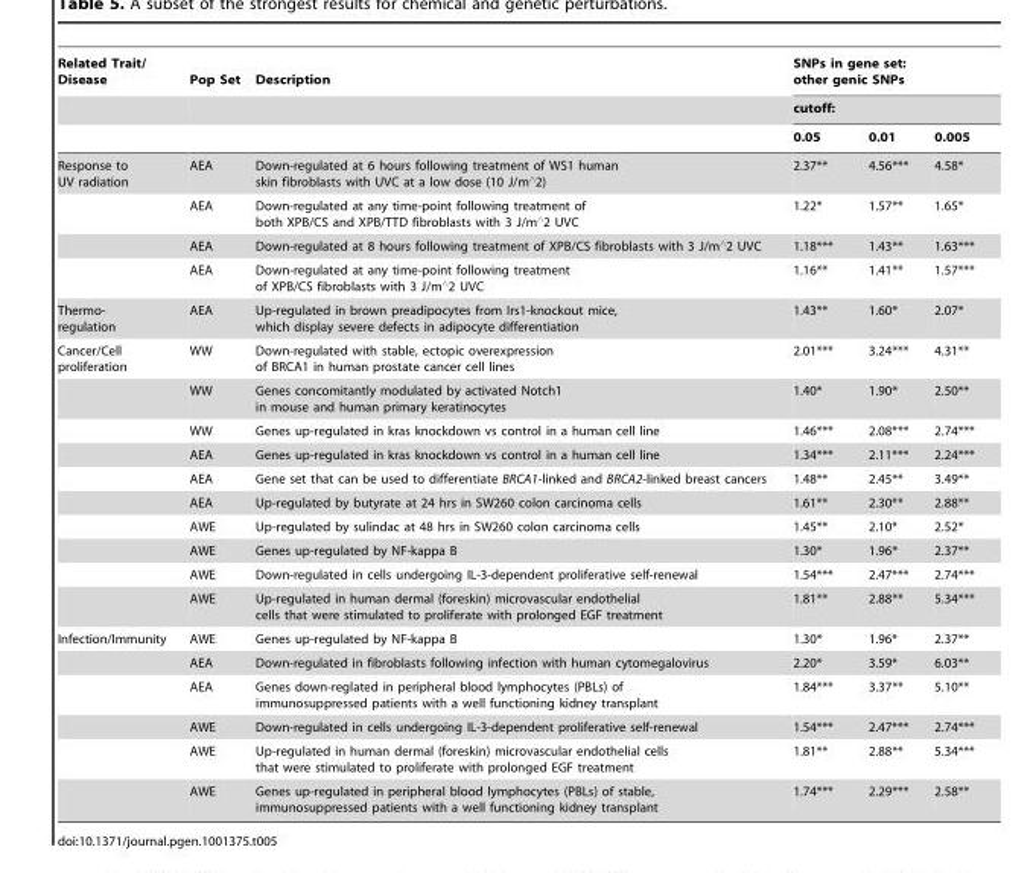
<table><thead><tr><td rowspan="3">Related Trait/ Disease</td><td rowspan="3">Pop Set</td><td rowspan="3">Description</td><td rowspan="2" colspan="3">SNPs in gene set: other genic SNPs cutoff:</td></tr><tr></tr><tr><td>0.05</td><td>0.01</td><td>0.005</td></tr></thead><tbody><tr><td rowspan="4">Response to UV radiation</td><td>AEA</td><td>Down-regulated at 6 hours following treatment of WS1 human skin fibroblasts with UVC at a low dose (10 J/m‘2)</td><td>2.37**</td><td>4.56***</td><td>4.58*</td></tr><tr><td>AEA</td><td>Down-regulated at any time-point following treatment of both XPB/CS and XPB/TTD fibroblasts with 3 J/m‘2 UVC</td><td>1.22*</td><td>1.57**</td><td>1.65*</td></tr><tr><td>AEA</td><td>Down-regulated at 8 hours following treatment of XPB/CS fibroblasts with 3 J/m‘2 UVC</td><td>1.18***</td><td>1.43**</td><td>1.63***</td></tr><tr><td>AEA</td><td>Down-regulated at any time-point following treatment of XPB/CS fibroblasts with 3 J/m‘2 UVC</td><td>1.16**</td><td>1.41**</td><td>1.57***</td></tr><tr><td>Thermo- regulation</td><td>AEA</td><td>Up-regulated in brown preadipocytes from Irs1-knockout mice, which display severe defects in adipocyte differentiation</td><td>1.43**</td><td>1.60*</td><td>2.07*</td></tr><tr><td rowspan="10">Cancer/Cell proliferation</td><td>WW</td><td>Down-regulated with stable, ectopic overexpression of BRCA1 in human prostate cancer cell lines</td><td>2.01***</td><td>3.24***</td><td>4.31**</td></tr><tr><td>WW</td><td>Genes concomitantly modulated by activated Notch1 in mouse and human primary keratinocytes</td><td>1.40*</td><td>1.90*</td><td>2.50**</td></tr><tr><td>WW</td><td>Genes up-regulated in kras knockdown vs control in a human cell line</td><td>1.46***</td><td>2.08***</td><td>2.74***</td></tr><tr><td>AEA</td><td>Genes up-regulated in kras knockdown vs control in a human cell line</td><td>1.34***</td><td>2.11***</td><td>2.24***</td></tr><tr><td>AEA</td><td>Gene set that can be used to differentiate BRCA1-linked and BRCA2-linked breast cancers</td><td>1.48**</td><td>2.45**</td><td>3.49**</td></tr><tr><td>AEA</td><td>Up-regulated by butyrate at 24 hrs in SW260 colon carcinoma cells</td><td>1.61**</td><td>2.30**</td><td>2.88**</td></tr><tr><td>AWE</td><td>Up-regulated by sulindac at 48 hrs in SW260 colon carcinoma cells</td><td>1.45**</td><td>2.10*</td><td>2.52*</td></tr><tr><td>AWE</td><td>Genes up-regulated by NF-kappa B</td><td>1.30*</td><td>1.96*</td><td>2.37**</td></tr><tr><td>AWE</td><td>Down-regulated in cells undergoing IL-3-dependent proliferative self-renewal</td><td>1.54***</td><td>2.47***</td><td>2.74***</td></tr><tr><td>AWE</td><td>Up-regulated in human dermal (foreskin) microvascular endothelial cells that were stimulated to proliferate with prolonged EGF treatment</td><td>1.81**</td><td>2.88**</td><td>5.34***</td></tr><tr><td rowspan="6">Infection/Immunity</td><td>AWE</td><td>Genes up-regulated by NF-kappa B</td><td>1.30*</td><td>1.96*</td><td>2.37**</td></tr><tr><td>AEA</td><td>Down-regulated in fibroblasts following infection with human cytomegalovirus</td><td>2.20*</td><td>3.59*</td><td>6.03**</td></tr><tr><td>AEA</td><td>Genes down-reglated in peripheral blood lymphocytes (PBLs) of immunosuppressed patients with a well functioning kidney transplant</td><td>1.84***</td><td>3.37**</td><td>5.10**</td></tr><tr><td>AWE</td><td>Down-regulated in cells undergoing IL-3-dependent proliferative self-renewal</td><td>1.54***</td><td>2.47***</td><td>2.74***</td></tr><tr><td>AWE</td><td>Up-regulated in human dermal (foreskin) microvascular endothelial cells that were stimulated to proliferate with prolonged EGF treatment</td><td>1.81**</td><td>2.88**</td><td>5.34***</td></tr><tr><td>AWE</td><td>Genes up-regulated in peripheral blood lymphocytes (PBLs) of stable, immunosuppressed patients with a well functioning kidney transplant</td><td>1.74***</td><td>2.29***</td><td>2.58**</td></tr></tbody></table>